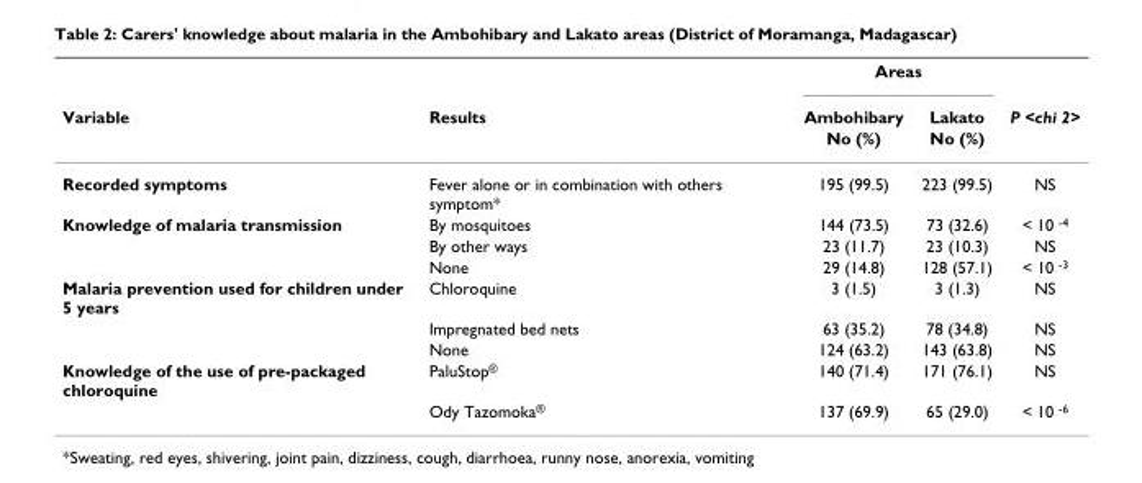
<table><thead><tr><td rowspan="3">Variable</td><td rowspan="3">Results</td><td colspan="2">Areas</td><td rowspan="3">P &lt;chi 2&gt;</td></tr><tr><td rowspan="2">Ambohibary No (%)</td><td rowspan="2">Lakato No (%)</td></tr><tr></tr></thead><tbody><tr><td>Recorded symptoms</td><td>Fever alone or in combination with others symptom*</td><td>195 (99.5)</td><td>223 (99.5)</td><td>NS</td></tr><tr><td rowspan="3">Knowledge of malaria transmission</td><td>By mosquitoes</td><td>144 (73.5)</td><td>73 (32.6)</td><td>&lt; 10 <sup>-4</sup></td></tr><tr><td>By other ways</td><td>23 (11.7)</td><td>23 (10.3)</td><td>NS</td></tr><tr><td>None</td><td>29 (14.8)</td><td>128 (57.1)</td><td>&lt; 10 <sup>-3</sup></td></tr><tr><td rowspan="3">Malaria prevention used for children under 5 years</td><td>Chloroquine</td><td>3 (1.5)</td><td>3 (1.3)</td><td>NS</td></tr><tr><td>Impregnated bed nets</td><td>63 (35.2)</td><td>78 (34.8)</td><td>NS</td></tr><tr><td>None</td><td>124 (63.2)</td><td>143 (63.8)</td><td>NS</td></tr><tr><td rowspan="2">Knowledge of the use of pre-packaged chloroquine</td><td>PaluStop<sup>®</sup></td><td>140 (71.4)</td><td>171 (76.1)</td><td>NS</td></tr><tr><td>Ody Tazomoka<sup>®</sup></td><td>137 (69.9)</td><td>65 (29.0)</td><td>&lt; 10 <sup>-6</sup></td></tr></tbody></table>